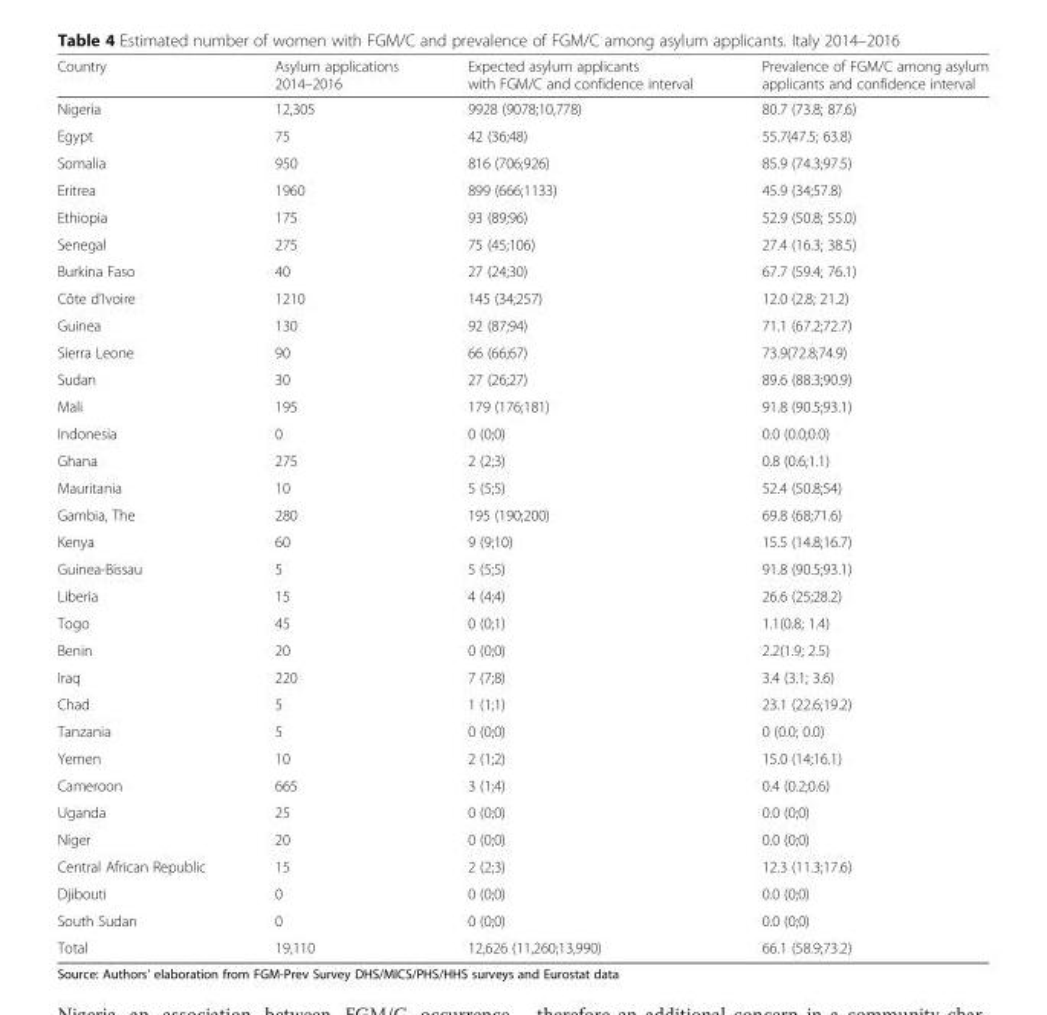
<table><thead><tr><td>Country</td><td>Asylum applications 2014–2016</td><td>Expected asylum applicants with FGM/C and confidence interval</td><td>Prevalence of FGM/C among asylum applicants and confidence interval</td></tr></thead><tbody><tr><td>Nigeria</td><td>12,305</td><td>9928 (9078;10,778)</td><td>80.7 (73.8; 87.6)</td></tr><tr><td>Egypt</td><td>75</td><td>42 (36;48)</td><td>55.7(47.5; 63.8)</td></tr><tr><td>Somalia</td><td>950</td><td>816 (706;926)</td><td>85.9 (74.3;97.5)</td></tr><tr><td>Eritrea</td><td>1960</td><td>899 (666;1133)</td><td>45.9 (34;57.8)</td></tr><tr><td>Ethiopia</td><td>175</td><td>93 (89;96)</td><td>52.9 (50.8; 55.0)</td></tr><tr><td>Senegal</td><td>275</td><td>75 (45;106)</td><td>27.4 (16.3; 38.5)</td></tr><tr><td>Burkina Faso</td><td>40</td><td>27 (24;30)</td><td>67.7 (59.4; 76.1)</td></tr><tr><td>Côte d’Ivoire</td><td>1210</td><td>145 (34;257)</td><td>12.0 (2.8; 21.2)</td></tr><tr><td>Guinea</td><td>130</td><td>92 (87;94)</td><td>71.1 (67.2;72.7)</td></tr><tr><td>Sierra Leone</td><td>90</td><td>66 (66;67)</td><td>73.9(72.8;74.9)</td></tr><tr><td>Sudan</td><td>30</td><td>27 (26;27)</td><td>89.6 (88.3;90.9)</td></tr><tr><td>Mali</td><td>195</td><td>179 (176;181)</td><td>91.8 (90.5;93.1)</td></tr><tr><td>Indonesia</td><td>0</td><td>0 (0;0)</td><td>0.0 (0.0;0.0)</td></tr><tr><td>Ghana</td><td>275</td><td>2 (2;3)</td><td>0.8 (0.6;1.1)</td></tr><tr><td>Mauritania</td><td>10</td><td>5 (5;5)</td><td>52.4 (50.8;54)</td></tr><tr><td>Gambia, The</td><td>280</td><td>195 (190;200)</td><td>69.8 (68;71.6)</td></tr><tr><td>Kenya</td><td>60</td><td>9 (9;10)</td><td>15.5 (14.8;16.7)</td></tr><tr><td>Guinea-Bissau</td><td>5</td><td>5 (5;5)</td><td>91.8 (90.5;93.1)</td></tr><tr><td>Liberia</td><td>15</td><td>4 (4;4)</td><td>26.6 (25;28.2)</td></tr><tr><td>Togo</td><td>45</td><td>0 (0;1)</td><td>1.1(0.8; 1.4)</td></tr><tr><td>Benin</td><td>20</td><td>0 (0;0)</td><td>2.2(1.9; 2.5)</td></tr><tr><td>Iraq</td><td>220</td><td>7 (7;8)</td><td>3.4 (3.1; 3.6)</td></tr><tr><td>Chad</td><td>5</td><td>1 (1;1)</td><td>23.1 (22.6;19.2)</td></tr><tr><td>Tanzania</td><td>5</td><td>0 (0;0)</td><td>0 (0.0; 0.0)</td></tr><tr><td>Yemen</td><td>10</td><td>2 (1;2)</td><td>15.0 (14;16.1)</td></tr><tr><td>Cameroon</td><td>665</td><td>3 (1;4)</td><td>0.4 (0.2;0.6)</td></tr><tr><td>Uganda</td><td>25</td><td>0 (0;0)</td><td>0.0 (0;0)</td></tr><tr><td>Niger</td><td>20</td><td>0 (0;0)</td><td>0.0 (0;0)</td></tr><tr><td>Central African Republic</td><td>15</td><td>2 (2;3)</td><td>12.3 (11.3;17.6)</td></tr><tr><td>Djibouti</td><td>0</td><td>0 (0;0)</td><td>0.0 (0;0)</td></tr><tr><td>South Sudan</td><td>0</td><td>0 (0;0)</td><td>0.0 (0;0)</td></tr><tr><td>Total</td><td>19,110</td><td>12,626 (11,260;13,990)</td><td>66.1 (58.9;73.2)</td></tr></tbody></table>